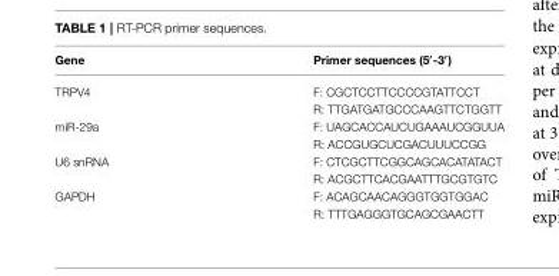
<table><thead><tr><td>Gene</td><td>Primer sequences (5′-3′)</td></tr></thead><tbody><tr><td rowspan="2">TRPV4</td><td>F: CGCTCCTTCCCCGTATTCCT</td></tr><tr><td>R: TTGATGATGCCCAAGTTCTGGTT</td></tr><tr><td rowspan="2">miR-29a</td><td>F: UAGCACCAUCUGAAAUCGGUUA</td></tr><tr><td>R: ACCGUGCUCGACUUUCCGG</td></tr><tr><td rowspan="2">U6 snRNA</td><td>F: CTCGCTTCGGCAGCACATATACT</td></tr><tr><td>R: ACGCTTCACGAATTTGCGTGTC</td></tr><tr><td rowspan="2">GAPDH</td><td>F: ACAGCAACAGGGTGGTGGAC</td></tr><tr><td>R: TTTGAGGGTGCAGCGAACTT</td></tr></tbody></table>